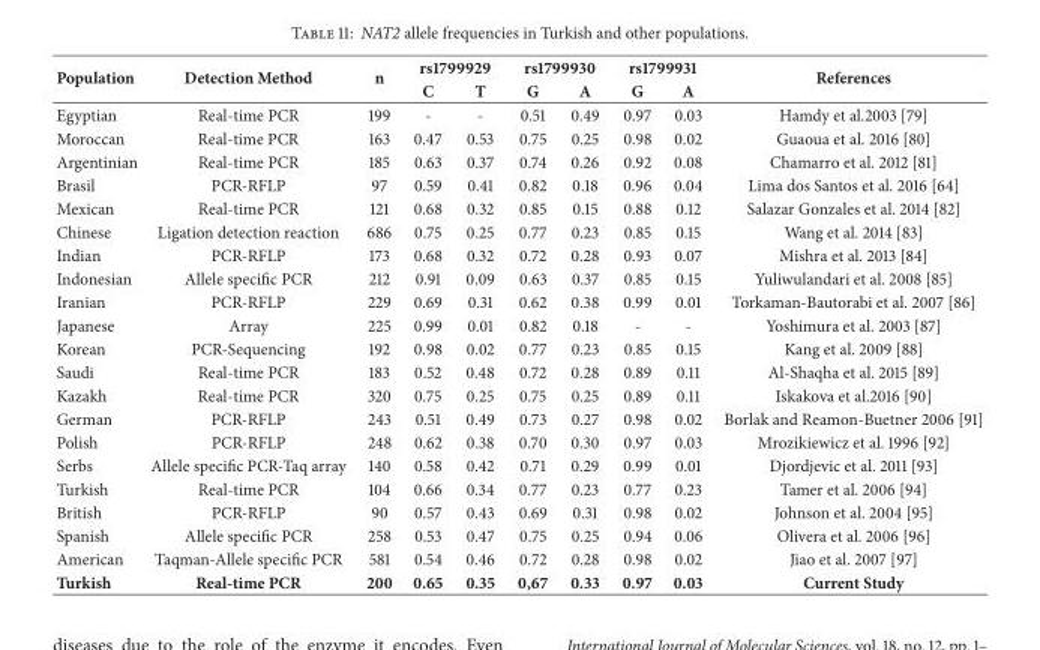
<table><thead><tr><td rowspan="2">Population</td><td rowspan="2">Detection Method</td><td rowspan="2">n</td><td colspan="2">rs1799929</td><td colspan="2">rs1799930</td><td colspan="2">rs1799931</td><td rowspan="2">References</td></tr><tr><td>C</td><td>T</td><td>G</td><td>A</td><td>G</td><td>A</td></tr></thead><tbody><tr><td>Egyptian</td><td>Real-time PCR</td><td>199</td><td>-</td><td>-</td><td>0.51</td><td>0.49</td><td>0.97</td><td>0.03</td><td>Hamdy et al.2003 [79]</td></tr><tr><td>Moroccan</td><td>Real-time PCR</td><td>163</td><td>0.47</td><td>0.53</td><td>0.75</td><td>0.25</td><td>0.98</td><td>0.02</td><td>Guaoua et al. 2016 [80]</td></tr><tr><td>Argentinian</td><td>Real-time PCR</td><td>185</td><td>0.63</td><td>0.37</td><td>0.74</td><td>0.26</td><td>0.92</td><td>0.08</td><td>Chamarro et al. 2012 [81]</td></tr><tr><td>Brasil</td><td>PCR-RFLP</td><td>97</td><td>0.59</td><td>0.41</td><td>0.82</td><td>0.18</td><td>0.96</td><td>0.04</td><td>Lima dos Santos et al. 2016 [64]</td></tr><tr><td>Mexican</td><td>Real-time PCR</td><td>121</td><td>0.68</td><td>0.32</td><td>0.85</td><td>0.15</td><td>0.88</td><td>0.12</td><td>Salazar Gonzales et al. 2014 [82]</td></tr><tr><td>Chinese</td><td>Ligation detection reaction</td><td>686</td><td>0.75</td><td>0.25</td><td>0.77</td><td>0.23</td><td>0.85</td><td>0.15</td><td>Wang et al. 2014 [83]</td></tr><tr><td>Indian</td><td>PCR-RFLP</td><td>173</td><td>0.68</td><td>0.32</td><td>0.72</td><td>0.28</td><td>0.93</td><td>0.07</td><td>Mishra et al. 2013 [84]</td></tr><tr><td>Indonesian</td><td>Allele specific PCR</td><td>212</td><td>0.91</td><td>0.09</td><td>0.63</td><td>0.37</td><td>0.85</td><td>0.15</td><td>Yuliwulandari et al. 2008 [85]</td></tr><tr><td>Iranian</td><td>PCR-RFLP</td><td>229</td><td>0.69</td><td>0.31</td><td>0.62</td><td>0.38</td><td>0.99</td><td>0.01</td><td>Torkaman-Bautorabi et al. 2007 [86]</td></tr><tr><td>Japanese</td><td>Array</td><td>225</td><td>0.99</td><td>0.01</td><td>0.82</td><td>0.18</td><td>-</td><td>-</td><td>Yoshimura et al. 2003 [87]</td></tr><tr><td>Korean</td><td>PCR-Sequencing</td><td>192</td><td>0.98</td><td>0.02</td><td>0.77</td><td>0.23</td><td>0.85</td><td>0.15</td><td>Kang et al. 2009 [88]</td></tr><tr><td>Saudi</td><td>Real-time PCR</td><td>183</td><td>0.52</td><td>0.48</td><td>0.72</td><td>0.28</td><td>0.89</td><td>0.11</td><td>Al-Shaqha et al. 2015 [89]</td></tr><tr><td>Kazakh</td><td>Real-time PCR</td><td>320</td><td>0.75</td><td>0.25</td><td>0.75</td><td>0.25</td><td>0.89</td><td>0.11</td><td>Iskakova et al.2016 [90]</td></tr><tr><td>German</td><td>PCR-RFLP</td><td>243</td><td>0.51</td><td>0.49</td><td>0.73</td><td>0.27</td><td>0.98</td><td>0.02</td><td>Borlak and Reamon-Buetner 2006 [91]</td></tr><tr><td>Polish</td><td>PCR-RFLP</td><td>248</td><td>0.62</td><td>0.38</td><td>0.70</td><td>0.30</td><td>0.97</td><td>0.03</td><td>Mrozikiewicz et al. 1996 [92]</td></tr><tr><td>Serbs</td><td>Allele specific PCR-Taq array</td><td>140</td><td>0.58</td><td>0.42</td><td>0.71</td><td>0.29</td><td>0.99</td><td>0.01</td><td>Djordjevic et al. 2011 [93]</td></tr><tr><td>Turkish</td><td>Real-time PCR</td><td>104</td><td>0.66</td><td>0.34</td><td>0.77</td><td>0.23</td><td>0.77</td><td>0.23</td><td>Tamer et al. 2006 [94]</td></tr><tr><td>British</td><td>PCR-RFLP</td><td>90</td><td>0.57</td><td>0.43</td><td>0.69</td><td>0.31</td><td>0.98</td><td>0.02</td><td>Johnson et al. 2004 [95]</td></tr><tr><td>Spanish</td><td>Allele specific PCR</td><td>258</td><td>0.53</td><td>0.47</td><td>0.75</td><td>0.25</td><td>0.94</td><td>0.06</td><td>Olivera et al. 2006 [96]</td></tr><tr><td>American</td><td>Taqman-Allele specific PCR</td><td>581</td><td>0.54</td><td>0.46</td><td>0.72</td><td>0.28</td><td>0.98</td><td>0.02</td><td>Jiao et al. 2007 [97]</td></tr><tr><td>Turkish</td><td>Real-time PCR</td><td>200</td><td>0.65</td><td>0.35</td><td>0,67</td><td>0.33</td><td>0.97</td><td>0.03</td><td>Current Study</td></tr></tbody></table>